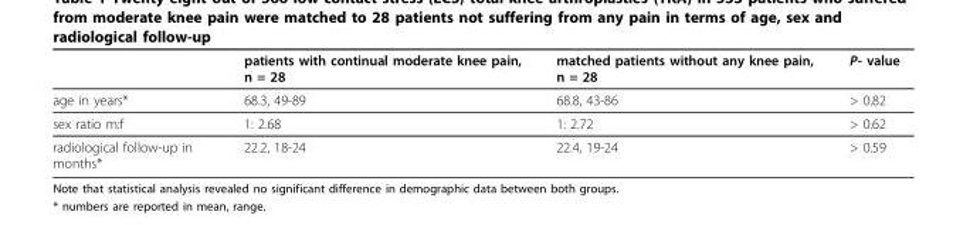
<table><thead><tr><td></td><td>patients with continual moderate knee pain, n = 28</td><td>matched patients without any knee pain, n = 28</td><td>P- value</td></tr></thead><tbody><tr><td>age in years*</td><td>68.3, 49-89</td><td>68.8, 43-86</td><td>&gt; 0.82</td></tr><tr><td>sex ratio m:f</td><td>1: 2.68</td><td>1: 2.72</td><td>&gt; 0.62</td></tr><tr><td>radiological follow-up in months*</td><td>22.2, 18-24</td><td>22.4, 19-24</td><td>&gt; 0.59</td></tr></tbody></table>